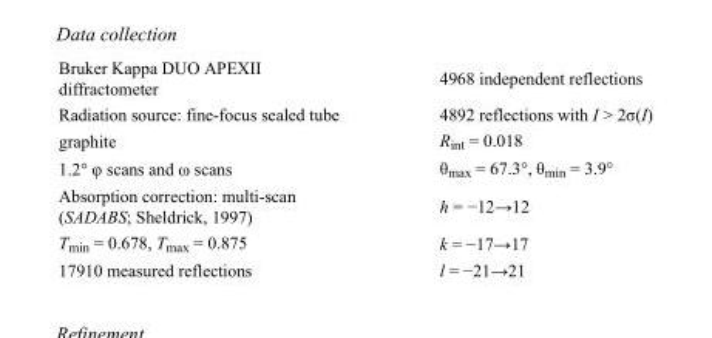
<table><tbody><tr><td>Bruker Kappa DUO APEXII diffractometer</td><td>4968 independent reflections</td></tr><tr><td>Radiation source: fine-focus sealed tube</td><td>4892 reflections with I &gt; 2σ(I)</td></tr><tr><td>graphite</td><td>R<sub>int</sub> = 0.018</td></tr><tr><td>1.2° φ scans and ω scans</td><td>θ<sub>max</sub> = 67.3°, θ<sub>min</sub> = 3.9°</td></tr><tr><td>Absorption correction: multi-scan (SADABS; Sheldrick, 1997)</td><td>h = −12→12</td></tr><tr><td>T<sub>min</sub> = 0.678, T<sub>max</sub> = 0.875</td><td>k = −17→17</td></tr><tr><td>17910 measured reflections</td><td>l = −21→21</td></tr></tbody></table>